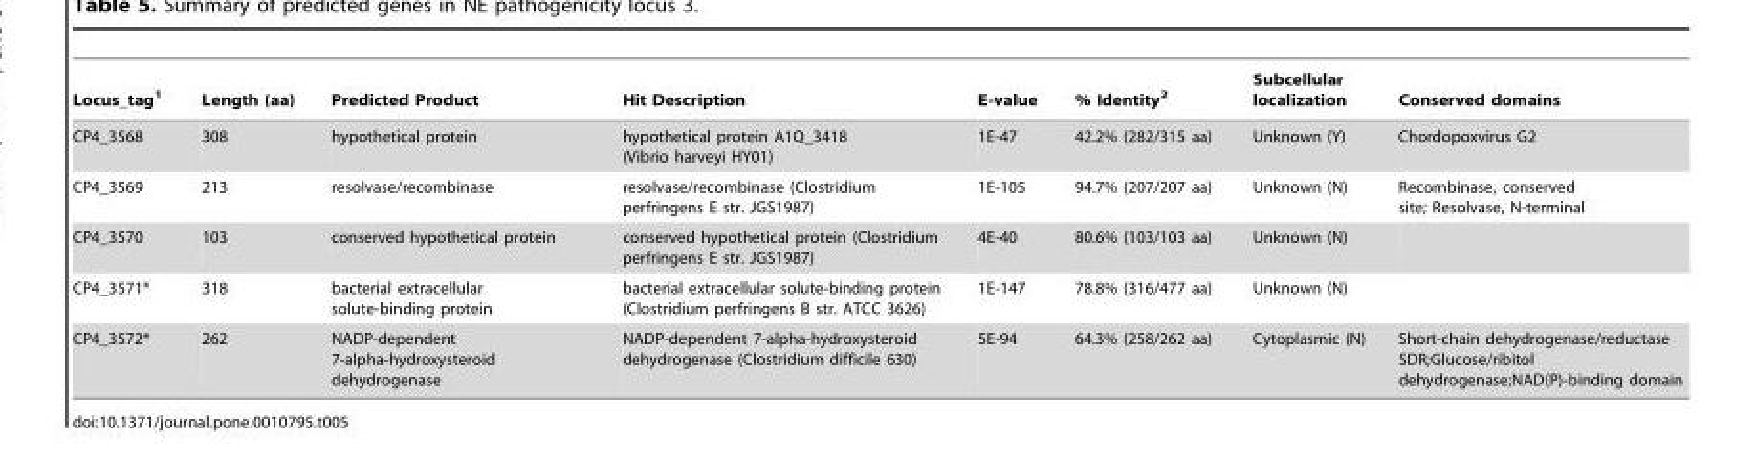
<table><thead><tr><td>Locus_tag<sup>1</sup></td><td>Length (aa)</td><td>Predicted Product</td><td>Hit Description</td><td>E-value</td><td>% Identity<sup>2</sup></td><td>Subcellular localization</td><td>Conserved domains</td></tr></thead><tbody><tr><td>CP4_3568</td><td>308</td><td>hypothetical protein</td><td>hypothetical protein A1Q_3418 (Vibrio harveyi HY01)</td><td>1E-47</td><td>42.2% (282/315 aa)</td><td>Unknown (Y)</td><td>Chordopoxvirus G2</td></tr><tr><td>CP4_3569</td><td>213</td><td>resolvase/recombinase</td><td>resolvase/recombinase (Clostridium perfringens E str. JGS1987)</td><td>1E-105</td><td>94.7% (207/207 aa)</td><td>Unknown (N)</td><td>Recombinase, conserved site; Resolvase, N-terminal</td></tr><tr><td>CP4_3570</td><td>103</td><td>conserved hypothetical protein</td><td>conserved hypothetical protein (Clostridium perfringens E str. JGS1987)</td><td>4E-40</td><td>80.6% (103/103 aa)</td><td>Unknown (N)</td><td></td></tr><tr><td>CP4_3571*</td><td>318</td><td>bacterial extracellular solute-binding protein</td><td>bacterial extracellular solute-binding protein (Clostridium perfringens B str. ATCC 3626)</td><td>1E-147</td><td>78.8% (316/477 aa)</td><td>Unknown (N)</td><td></td></tr><tr><td>CP4_3572*</td><td>262</td><td>NADP-dependent 7-alpha-hydroxysteroid dehydrogenase</td><td>NADP-dependent 7-alpha-hydroxysteroid dehydrogenase (Clostridium difficile 630)</td><td>5E-94</td><td>64.3% (258/262 aa)</td><td>Cytoplasmic (N)</td><td>Short-chain dehydrogenase/reductase SDR;Glucose/ribitol dehydrogenase;NAD(P)-binding domain</td></tr></tbody></table>